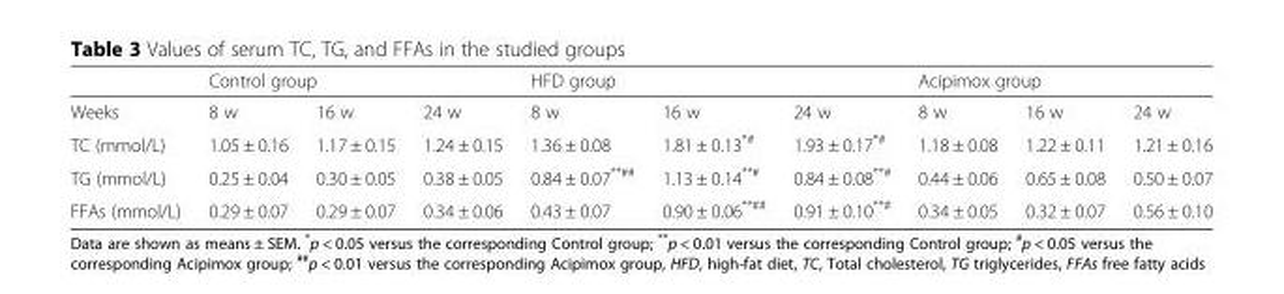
<table><thead><tr><td rowspan="2">Weeks</td><td colspan="3">Control group</td><td colspan="3">HFD group</td><td colspan="3">Acipimox group</td></tr><tr><td>8 w</td><td>16 w</td><td>24 w</td><td>8 w</td><td>16 w</td><td>24 w</td><td>8 w</td><td>16 w</td><td>24 w</td></tr></thead><tbody><tr><td>TC (mmol/L)</td><td>1.05 ± 0.16</td><td>1.17 ± 0.15</td><td>1.24 ± 0.15</td><td>1.36 ± 0.08</td><td>1.81 ± 0.13<sup>*#</sup></td><td>1.93 ± 0.17<sup>*#</sup></td><td>1.18 ± 0.08</td><td>1.22 ± 0.11</td><td>1.21 ± 0.16</td></tr><tr><td>TG (mmol/L)</td><td>0.25 ± 0.04</td><td>0.30 ± 0.05</td><td>0.38 ± 0.05</td><td>0.84 ± 0.07<sup>**##</sup></td><td>1.13 ± 0.14<sup>**#</sup></td><td>0.84 ± 0.08<sup>**#</sup></td><td>0.44 ± 0.06</td><td>0.65 ± 0.08</td><td>0.50 ± 0.07</td></tr><tr><td>FFAs (mmol/L)</td><td>0.29 ± 0.07</td><td>0.29 ± 0.07</td><td>0.34 ± 0.06</td><td>0.43 ± 0.07</td><td>0.90 ± 0.06<sup>**##</sup></td><td>0.91 ± 0.10<sup>**#</sup></td><td>0.34 ± 0.05</td><td>0.32 ± 0.07</td><td>0.56 ± 0.10</td></tr></tbody></table>